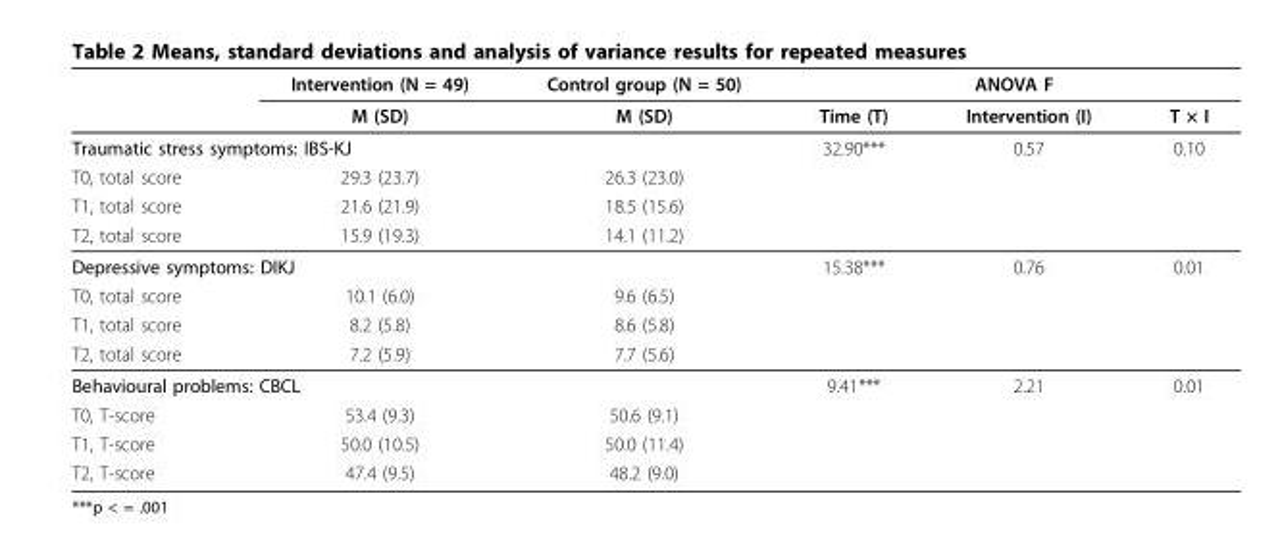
<table><thead><tr><td rowspan="2"></td><td rowspan="2">Intervention (N = 49) M (SD)</td><td rowspan="2">Control group (N = 50) M (SD)</td><td colspan="3">ANOVA F</td></tr><tr><td>Time (T)</td><td>Intervention (I)</td><td>T × I</td></tr></thead><tbody><tr><td colspan="3">Traumatic stress symptoms: IBS-KJ</td><td>32.90***</td><td>0.57</td><td>0.10</td></tr><tr><td>T0, total score</td><td>29.3 (23.7)</td><td>26.3 (23.0)</td><td></td><td></td><td></td></tr><tr><td>T1, total score</td><td>21.6 (21.9)</td><td>18.5 (15.6)</td><td></td><td></td><td></td></tr><tr><td>T2, total score</td><td>15.9 (19.3)</td><td>14.1 (11.2)</td><td></td><td></td><td></td></tr><tr><td colspan="3">Depressive symptoms: DIKJ</td><td>15.38***</td><td>0.76</td><td>0.01</td></tr><tr><td>T0, total score</td><td>10.1 (6.0)</td><td>9.6 (6.5)</td><td></td><td></td><td></td></tr><tr><td>T1, total score</td><td>8.2 (5.8)</td><td>8.6 (5.8)</td><td></td><td></td><td></td></tr><tr><td>T2, total score</td><td>7.2 (5.9)</td><td>7.7 (5.6)</td><td></td><td></td><td></td></tr><tr><td colspan="3">Behavioural problems: CBCL</td><td>9.41***</td><td>2.21</td><td>0.01</td></tr><tr><td>T0, T-score</td><td>53.4 (9.3)</td><td>50.6 (9.1)</td><td></td><td></td><td></td></tr><tr><td>T1, T-score</td><td>50.0 (10.5)</td><td>50.0 (11.4)</td><td></td><td></td><td></td></tr><tr><td>T2, T-score</td><td>47.4 (9.5)</td><td>48.2 (9.0)</td><td></td><td></td><td></td></tr></tbody></table>